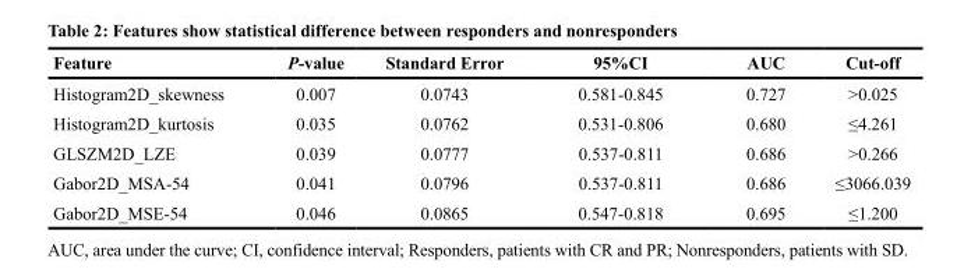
<table><thead><tr><td>Feature</td><td>P-value</td><td>Standard Error</td><td>95%CI</td><td>AUC</td><td>Cut-off</td></tr></thead><tbody><tr><td>Histogram2D_skewness</td><td>0.007</td><td>0.0743</td><td>0.581-0.845</td><td>0.727</td><td>&gt;0.025</td></tr><tr><td>Histogram2D_kurtosis</td><td>0.035</td><td>0.0762</td><td>0.531-0.806</td><td>0.680</td><td>≤4.261</td></tr><tr><td>GLSZM2D_LZE</td><td>0.039</td><td>0.0777</td><td>0.537-0.811</td><td>0.686</td><td>&gt;0.266</td></tr><tr><td>Gabor2D_MSA-54</td><td>0.041</td><td>0.0796</td><td>0.537-0.811</td><td>0.686</td><td>≤3066.039</td></tr><tr><td>Gabor2D_MSE-54</td><td>0.046</td><td>0.0865</td><td>0.547-0.818</td><td>0.695</td><td>≤1.200</td></tr></tbody></table>